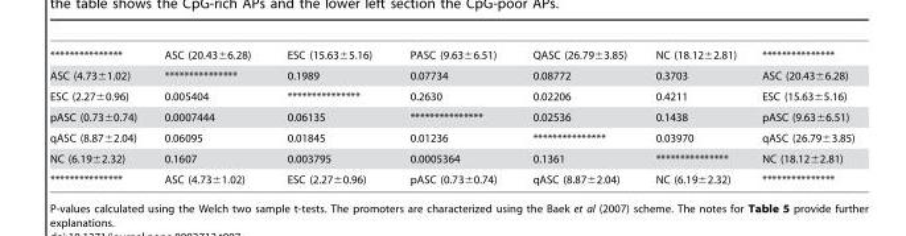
<table><tbody><tr><td>***************</td><td>ASC (20.43±6.28)</td><td>ESC (15.63±5.16)</td><td>PASC (9.63±6.51)</td><td>QASC (26.79±3.85)</td><td>NC (18.12±2.81)</td><td>***************</td></tr><tr><td>ASC (4.73±1.02)</td><td>***************</td><td>0.1989</td><td>0.07734</td><td>0.08772</td><td>0.3703</td><td>ASC (20.43±6.28)</td></tr><tr><td>ESC (2.27±0.96)</td><td>0.005404</td><td>***************</td><td>0.2630</td><td>0.02206</td><td>0.4211</td><td>ESC (15.63±5.16)</td></tr><tr><td>pASC (0.73±0.74)</td><td>0.0007444</td><td>0.06135</td><td>***************</td><td>0.02536</td><td>0.1438</td><td>pASC (9.63±6.51)</td></tr><tr><td>qASC (8.87±2.04)</td><td>0.06095</td><td>0.01845</td><td>0.01236</td><td>***************</td><td>0.03970</td><td>qASC (26.79±3.85)</td></tr><tr><td>NC (6.19±2.32)</td><td>0.1607</td><td>0.003795</td><td>0.0005364</td><td>0.1361</td><td>***************</td><td>NC (18.12±2.81)</td></tr><tr><td>***************</td><td>ASC (4.73±1.02)</td><td>ESC (2.27±0.96)</td><td>pASC (0.73±0.74)</td><td>qASC (8.87±2.04)</td><td>NC (6.19±2.32)</td><td>***************</td></tr></tbody></table>